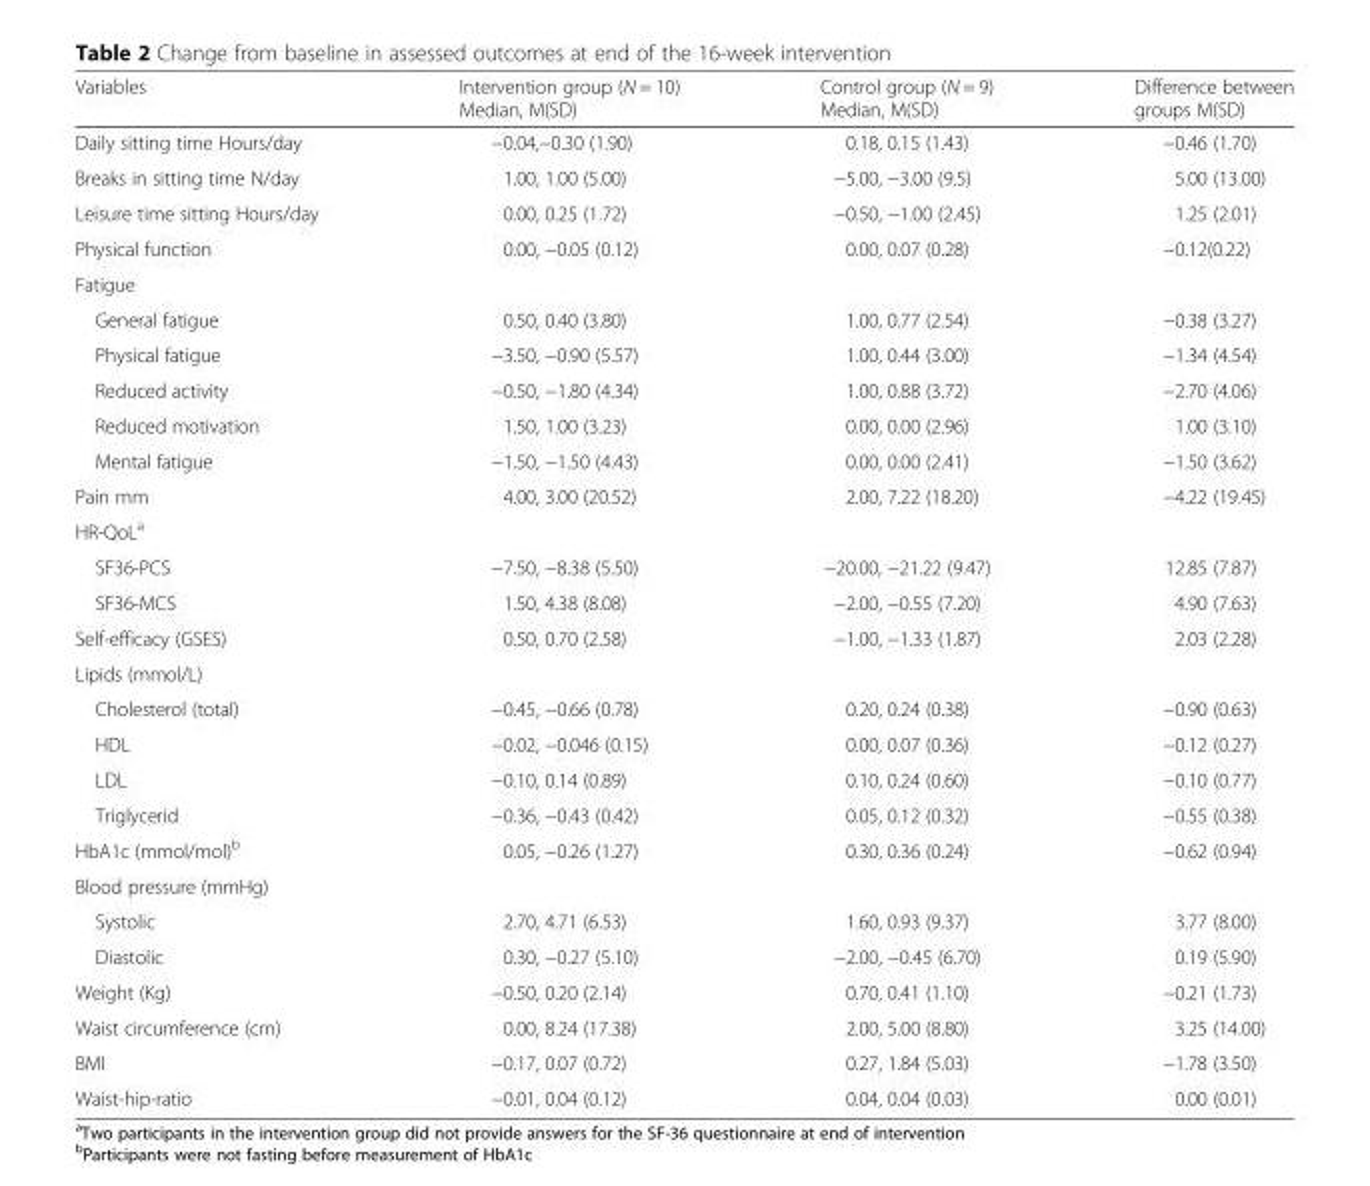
<table><thead><tr><td>Variables</td><td>Intervention group (N = 10) Median, M(SD)</td><td>Control group (N = 9) Median, M(SD)</td><td>Difference between groups M(SD)</td></tr></thead><tbody><tr><td>Daily sitting time Hours/day</td><td>−0.04,−0.30 (1.90)</td><td>0.18, 0.15 (1.43)</td><td>−0.46 (1.70)</td></tr><tr><td>Breaks in sitting time N/day</td><td>1.00, 1.00 (5.00)</td><td>−5.00, −3.00 (9.5)</td><td>5.00 (13.00)</td></tr><tr><td>Leisure time sitting Hours/day</td><td>0.00, 0.25 (1.72)</td><td>−0.50, −1.00 (2.45)</td><td>1.25 (2.01)</td></tr><tr><td>Physical function</td><td>0.00, −0.05 (0.12)</td><td>0.00, 0.07 (0.28)</td><td>−0.12(0.22)</td></tr><tr><td colspan="4">Fatigue</td></tr><tr><td>General fatigue</td><td>0.50, 0.40 (3.80)</td><td>1.00, 0.77 (2.54)</td><td>−0.38 (3.27)</td></tr><tr><td>Physical fatigue</td><td>−3.50, −0.90 (5.57)</td><td>1.00, 0.44 (3.00)</td><td>−1.34 (4.54)</td></tr><tr><td>Reduced activity</td><td>−0.50, −1.80 (4.34)</td><td>1.00, 0.88 (3.72)</td><td>−2.70 (4.06)</td></tr><tr><td>Reduced motivation</td><td>1.50, 1.00 (3.23)</td><td>0.00, 0.00 (2.96)</td><td>1.00 (3.10)</td></tr><tr><td>Mental fatigue</td><td>−1.50, −1.50 (4.43)</td><td>0.00, 0.00 (2.41)</td><td>−1.50 (3.62)</td></tr><tr><td>Pain mm</td><td>4.00, 3.00 (20.52)</td><td>2.00, 7.22 (18.20)</td><td>−4.22 (19.45)</td></tr><tr><td colspan="4">HR-QoL<sup>a</sup></td></tr><tr><td>SF36-PCS</td><td>−7.50, −8.38 (5.50)</td><td>−20.00, −21.22 (9.47)</td><td>12.85 (7.87)</td></tr><tr><td>SF36-MCS</td><td>1.50, 4.38 (8.08)</td><td>−2.00, −0.55 (7.20)</td><td>4.90 (7.63)</td></tr><tr><td>Self-efficacy (GSES)</td><td>0.50, 0.70 (2.58)</td><td>−1.00, −1.33 (1.87)</td><td>2.03 (2.28)</td></tr><tr><td colspan="4">Lipids (mmol/L)</td></tr><tr><td>Cholesterol (total)</td><td>−0.45, −0.66 (0.78)</td><td>0.20, 0.24 (0.38)</td><td>−0.90 (0.63)</td></tr><tr><td>HDL</td><td>−0.02, −0.046 (0.15)</td><td>0.00, 0.07 (0.36)</td><td>−0.12 (0.27)</td></tr><tr><td>LDL</td><td>−0.10, 0.14 (0.89)</td><td>0.10, 0.24 (0.60)</td><td>−0.10 (0.77)</td></tr><tr><td>Triglycerid</td><td>−0.36, −0.43 (0.42)</td><td>0.05, 0.12 (0.32)</td><td>−0.55 (0.38)</td></tr><tr><td>HbA1c (mmol/mol)<sup>b</sup></td><td>0.05, −0.26 (1.27)</td><td>0.30, 0.36 (0.24)</td><td>−0.62 (0.94)</td></tr><tr><td colspan="4">Blood pressure (mmHg)</td></tr><tr><td>Systolic</td><td>2.70, 4.71 (6.53)</td><td>1.60, 0.93 (9.37)</td><td>3.77 (8.00)</td></tr><tr><td>Diastolic</td><td>0.30, −0.27 (5.10)</td><td>−2.00, −0.45 (6.70)</td><td>0.19 (5.90)</td></tr><tr><td>Weight (Kg)</td><td>−0.50, 0.20 (2.14)</td><td>0.70, 0.41 (1.10)</td><td>−0.21 (1.73)</td></tr><tr><td>Waist circumference (cm)</td><td>0.00, 8.24 (17.38)</td><td>2.00, 5.00 (8.80)</td><td>3.25 (14.00)</td></tr><tr><td>BMI</td><td>−0.17, 0.07 (0.72)</td><td>0.27, 1.84 (5.03)</td><td>−1.78 (3.50)</td></tr><tr><td>Waist-hip-ratio</td><td>−0.01, 0.04 (0.12)</td><td>0.04, 0.04 (0.03)</td><td>0.00 (0.01)</td></tr></tbody></table>